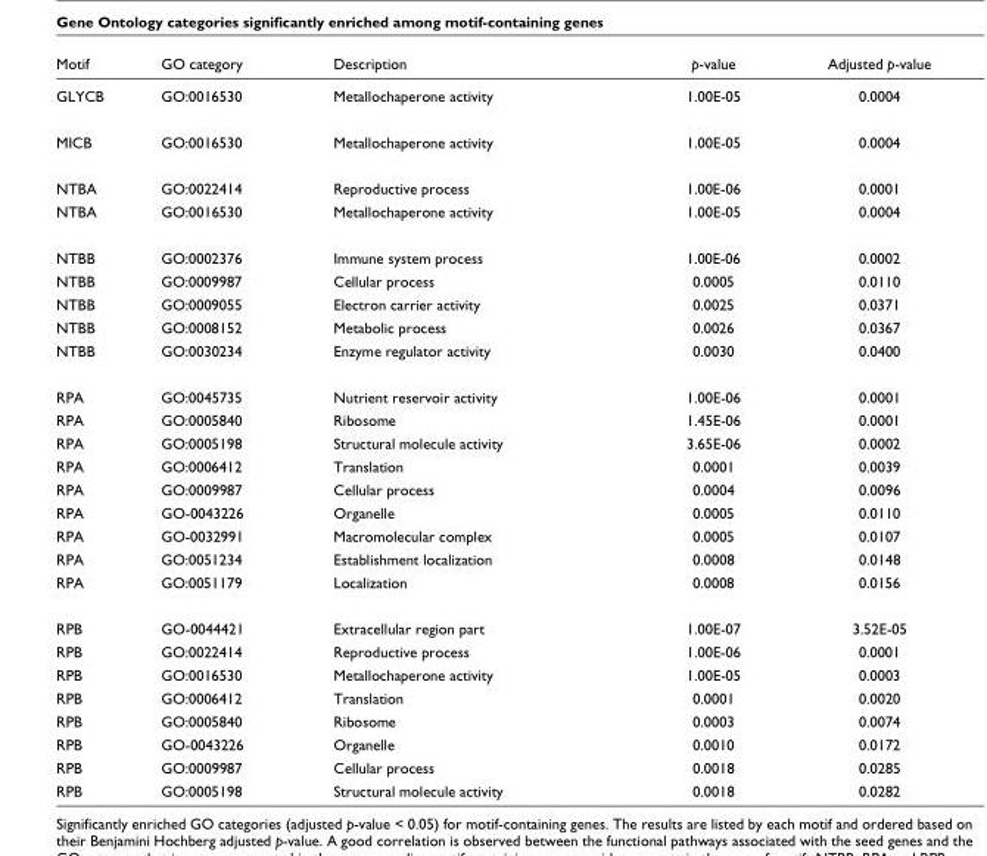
<table><thead><tr><td>Motif</td><td>GO category</td><td>Description</td><td>p-value</td><td>Adjusted p-value</td></tr></thead><tbody><tr><td>GLYCB</td><td>GO:0016530</td><td>Metallochaperone activity</td><td>1.00E-05</td><td>0.0004</td></tr><tr><td>MICB</td><td>GO:0016530</td><td>Metallochaperone activity</td><td>1.00E-05</td><td>0.0004</td></tr><tr><td>NTBA</td><td>GO:0022414</td><td>Reproductive process</td><td>1.00E-06</td><td>0.0001</td></tr><tr><td>NTBA</td><td>GO:0016530</td><td>Metallochaperone activity</td><td>1.00E-05</td><td>0.0004</td></tr><tr><td>NTBB</td><td>GO:0002376</td><td>Immune system process</td><td>1.00E-06</td><td>0.0002</td></tr><tr><td>NTBB</td><td>GO:0009987</td><td>Cellular process</td><td>0.0005</td><td>0.0110</td></tr><tr><td>NTBB</td><td>GO:0009055</td><td>Electron carrier activity</td><td>0.0025</td><td>0.0371</td></tr><tr><td>NTBB</td><td>GO:0008152</td><td>Metabolic process</td><td>0.0026</td><td>0.0367</td></tr><tr><td>NTBB</td><td>GO:0030234</td><td>Enzyme regulator activity</td><td>0.0030</td><td>0.0400</td></tr><tr><td>RPA</td><td>GO:0045735</td><td>Nutrient reservoir activity</td><td>1.00E-06</td><td>0.0001</td></tr><tr><td>RPA</td><td>GO:0005840</td><td>Ribosome</td><td>1.45E-06</td><td>0.0001</td></tr><tr><td>RPA</td><td>GO:0005198</td><td>Structural molecule activity</td><td>3.65E-06</td><td>0.0002</td></tr><tr><td>RPA</td><td>GO:0006412</td><td>Translation</td><td>0.0001</td><td>0.0039</td></tr><tr><td>RPA</td><td>GO:0009987</td><td>Cellular process</td><td>0.0004</td><td>0.0096</td></tr><tr><td>RPA</td><td>GO-0043226</td><td>Organelle</td><td>0.0005</td><td>0.0110</td></tr><tr><td>RPA</td><td>GO-0032991</td><td>Macromolecular complex</td><td>0.0005</td><td>0.0107</td></tr><tr><td>RPA</td><td>GO:0051234</td><td>Establishment localization</td><td>0.0008</td><td>0.0148</td></tr><tr><td>RPA</td><td>GO:0051179</td><td>Localization</td><td>0.0008</td><td>0.0156</td></tr><tr><td>RPB</td><td>GO-0044421</td><td>Extracellular region part</td><td>1.00E-07</td><td>3.52E-05</td></tr><tr><td>RPB</td><td>GO:0022414</td><td>Reproductive process</td><td>1.00E-06</td><td>0.0001</td></tr><tr><td>RPB</td><td>GO:0016530</td><td>Metallochaperone activity</td><td>1.00E-05</td><td>0.0003</td></tr><tr><td>RPB</td><td>GO:0006412</td><td>Translation</td><td>0.0001</td><td>0.0020</td></tr><tr><td>RPB</td><td>GO:0005840</td><td>Ribosome</td><td>0.0003</td><td>0.0074</td></tr><tr><td>RPB</td><td>GO-0043226</td><td>Organelle</td><td>0.0010</td><td>0.0172</td></tr><tr><td>RPB</td><td>GO:0009987</td><td>Cellular process</td><td>0.0018</td><td>0.0285</td></tr><tr><td>RPB</td><td>GO:0005198</td><td>Structural molecule activity</td><td>0.0018</td><td>0.0282</td></tr></tbody></table>